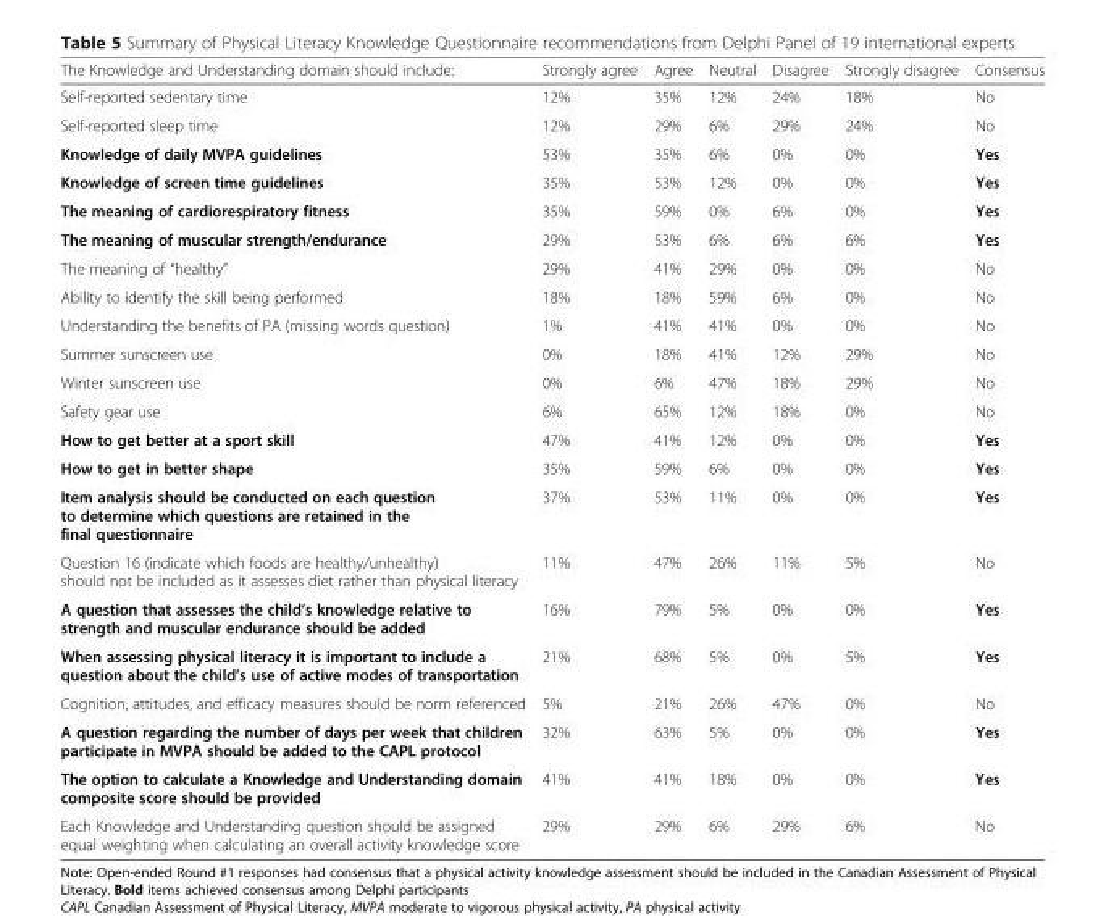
<table><thead><tr><td>The Knowledge and Understanding domain should include:</td><td>Strongly agree</td><td>Agree</td><td>Neutral</td><td>Disagree</td><td>Strongly disagree</td><td>Consensus</td></tr></thead><tbody><tr><td>Self-reported sedentary time</td><td>12%</td><td>35%</td><td>12%</td><td>24%</td><td>18%</td><td>No</td></tr><tr><td>Self-reported sleep time</td><td>12%</td><td>29%</td><td>6%</td><td>29%</td><td>24%</td><td>No</td></tr><tr><td>Knowledge of daily MVPA guidelines</td><td>53%</td><td>35%</td><td>6%</td><td>0%</td><td>0%</td><td>Yes</td></tr><tr><td>Knowledge of screen time guidelines</td><td>35%</td><td>53%</td><td>12%</td><td>0%</td><td>0%</td><td>Yes</td></tr><tr><td>The meaning of cardiorespiratory fitness</td><td>35%</td><td>59%</td><td>0%</td><td>6%</td><td>0%</td><td>Yes</td></tr><tr><td>The meaning of muscular strength/endurance</td><td>29%</td><td>53%</td><td>6%</td><td>6%</td><td>6%</td><td>Yes</td></tr><tr><td>The meaning of “healthy”</td><td>29%</td><td>41%</td><td>29%</td><td>0%</td><td>0%</td><td>No</td></tr><tr><td>Ability to identify the skill being performed</td><td>18%</td><td>18%</td><td>59%</td><td>6%</td><td>0%</td><td>No</td></tr><tr><td>Understanding the benefits of PA (missing words question)</td><td>1%</td><td>41%</td><td>41%</td><td>0%</td><td>0%</td><td>No</td></tr><tr><td>Summer sunscreen use</td><td>0%</td><td>18%</td><td>41%</td><td>12%</td><td>29%</td><td>No</td></tr><tr><td>Winter sunscreen use</td><td>0%</td><td>6%</td><td>47%</td><td>18%</td><td>29%</td><td>No</td></tr><tr><td>Safety gear use</td><td>6%</td><td>65%</td><td>12%</td><td>18%</td><td>0%</td><td>No</td></tr><tr><td>How to get better at a sport skill</td><td>47%</td><td>41%</td><td>12%</td><td>0%</td><td>0%</td><td>Yes</td></tr><tr><td>How to get in better shape</td><td>35%</td><td>59%</td><td>6%</td><td>0%</td><td>0%</td><td>Yes</td></tr><tr><td>Item analysis should be conducted on each question to determine which questions are retained in the final questionnaire</td><td>37%</td><td>53%</td><td>11%</td><td>0%</td><td>0%</td><td>Yes</td></tr><tr><td>Question 16 (indicate which foods are healthy/unhealthy) should not be included as it assesses diet rather than physical literacy</td><td>11%</td><td>47%</td><td>26%</td><td>11%</td><td>5%</td><td>No</td></tr><tr><td>A question that assesses the child’s knowledge relative to strength and muscular endurance should be added</td><td>16%</td><td>79%</td><td>5%</td><td>0%</td><td>0%</td><td>Yes</td></tr><tr><td>When assessing physical literacy it is important to include a question about the child’s use of active modes of transportation</td><td>21%</td><td>68%</td><td>5%</td><td>0%</td><td>5%</td><td>Yes</td></tr><tr><td>Cognition, attitudes, and efficacy measures should be norm referenced</td><td>5%</td><td>21%</td><td>26%</td><td>47%</td><td>0%</td><td>No</td></tr><tr><td>A question regarding the number of days per week that children participate in MVPA should be added to the CAPL protocol</td><td>32%</td><td>63%</td><td>5%</td><td>0%</td><td>0%</td><td>Yes</td></tr><tr><td>The option to calculate a Knowledge and Understanding domain composite score should be provided</td><td>41%</td><td>41%</td><td>18%</td><td>0%</td><td>0%</td><td>Yes</td></tr><tr><td>Each Knowledge and Understanding question should be assigned equal weighting when calculating an overall activity knowledge score</td><td>29%</td><td>29%</td><td>6%</td><td>29%</td><td>6%</td><td>No</td></tr></tbody></table>